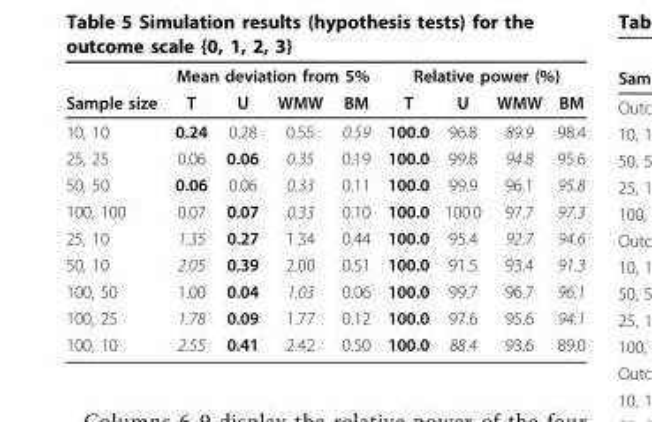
<table><thead><tr><td rowspan="2">Sample size</td><td colspan="4">Mean deviation from 5%</td><td colspan="4">Relative power (%)</td></tr><tr><td>T</td><td>U</td><td>WMW</td><td>BM</td><td>T</td><td>U</td><td>WMW</td><td>BM</td></tr></thead><tbody><tr><td>10, 10</td><td>0.24</td><td>0.28</td><td>0.55</td><td>0.59</td><td>100.0</td><td>96.8</td><td>89.9</td><td>98.4</td></tr><tr><td>25, 25</td><td>0.06</td><td>0.06</td><td>0.35</td><td>0.19</td><td>100.0</td><td>99.8</td><td>94.8</td><td>95.6</td></tr><tr><td>50, 50</td><td>0.06</td><td>0.06</td><td>0.33</td><td>0.11</td><td>100.0</td><td>99.9</td><td>96.1</td><td>95.8</td></tr><tr><td>100, 100</td><td>0.07</td><td>0.07</td><td>0.33</td><td>0.10</td><td>100.0</td><td>100.0</td><td>97.7</td><td>97.3</td></tr><tr><td>25, 10</td><td>1.35</td><td>0.27</td><td>1.34</td><td>0.44</td><td>100.0</td><td>95.4</td><td>92.7</td><td>94.6</td></tr><tr><td>50, 10</td><td>2.05</td><td>0.39</td><td>2.00</td><td>0.51</td><td>100.0</td><td>91.5</td><td>93.4</td><td>91.3</td></tr><tr><td>100, 50</td><td>1.00</td><td>0.04</td><td>1.03</td><td>0.06</td><td>100.0</td><td>99.7</td><td>96.7</td><td>96.1</td></tr><tr><td>100, 25</td><td>1.78</td><td>0.09</td><td>1.77</td><td>0.12</td><td>100.0</td><td>97.6</td><td>95.6</td><td>94.1</td></tr><tr><td>100, 10</td><td>2.55</td><td>0.41</td><td>2.42</td><td>0.50</td><td>100.0</td><td>88.4</td><td>93.6</td><td>89.0</td></tr></tbody></table>